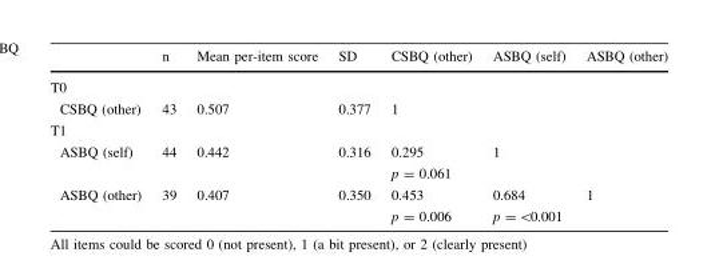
<table><thead><tr><td></td><td>n</td><td>Mean per-item score</td><td>SD</td><td>CSBQ (other)</td><td>ASBQ (self)</td><td>ASBQ (other)</td></tr></thead><tbody><tr><td colspan="7">T0</td></tr><tr><td>CSBQ (other)</td><td>43</td><td>0.507</td><td>0.377</td><td>1</td><td></td><td></td></tr><tr><td colspan="7">T1</td></tr><tr><td>ASBQ (self)</td><td>44</td><td>0.442</td><td>0.316</td><td>0.295 p = 0.061</td><td>1</td><td></td></tr><tr><td>ASBQ (other)</td><td>39</td><td>0.407</td><td>0.350</td><td>0.453 p = 0.006</td><td>0.684 p = &lt;0.001</td><td>1</td></tr></tbody></table>